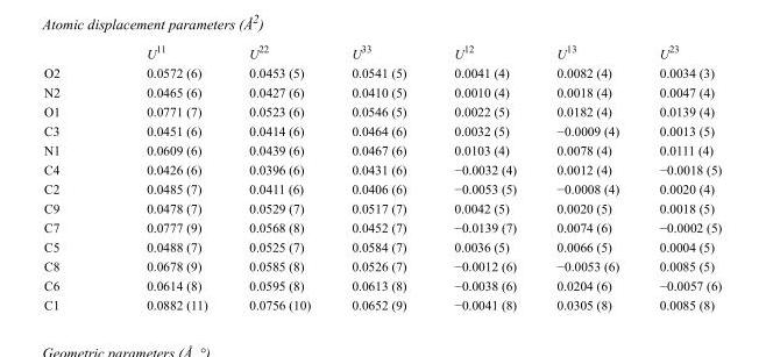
<table><thead><tr><td></td><td>U<sup>11</sup></td><td>U<sup>22</sup></td><td>U<sup>33</sup></td><td>U<sup>12</sup></td><td>U<sup>13</sup></td><td>U<sup>23</sup></td></tr></thead><tbody><tr><td>O2</td><td>0.0572 (6)</td><td>0.0453 (5)</td><td>0.0541 (5)</td><td>0.0041 (4)</td><td>0.0082 (4)</td><td>0.0034 (3)</td></tr><tr><td>N2</td><td>0.0465 (6)</td><td>0.0427 (6)</td><td>0.0410 (5)</td><td>0.0010 (4)</td><td>0.0018 (4)</td><td>0.0047 (4)</td></tr><tr><td>O1</td><td>0.0771 (7)</td><td>0.0523 (6)</td><td>0.0546 (5)</td><td>0.0022 (5)</td><td>0.0182 (4)</td><td>0.0139 (4)</td></tr><tr><td>C3</td><td>0.0451 (6)</td><td>0.0414 (6)</td><td>0.0464 (6)</td><td>0.0032 (5)</td><td>−0.0009 (4)</td><td>0.0013 (5)</td></tr><tr><td>N1</td><td>0.0609 (6)</td><td>0.0439 (6)</td><td>0.0467 (6)</td><td>0.0103 (4)</td><td>0.0078 (4)</td><td>0.0111 (4)</td></tr><tr><td>C4</td><td>0.0426 (6)</td><td>0.0396 (6)</td><td>0.0431 (6)</td><td>−0.0032 (4)</td><td>0.0012 (4)</td><td>−0.0018 (5)</td></tr><tr><td>C2</td><td>0.0485 (7)</td><td>0.0411 (6)</td><td>0.0406 (6)</td><td>−0.0053 (5)</td><td>−0.0008 (4)</td><td>0.0020 (4)</td></tr><tr><td>C9</td><td>0.0478 (7)</td><td>0.0529 (7)</td><td>0.0517 (7)</td><td>0.0042 (5)</td><td>0.0020 (5)</td><td>0.0018 (5)</td></tr><tr><td>C7</td><td>0.0777 (9)</td><td>0.0568 (8)</td><td>0.0452 (7)</td><td>−0.0139 (7)</td><td>0.0074 (6)</td><td>−0.0002 (5)</td></tr><tr><td>C5</td><td>0.0488 (7)</td><td>0.0525 (7)</td><td>0.0584 (7)</td><td>0.0036 (5)</td><td>0.0066 (5)</td><td>0.0004 (5)</td></tr><tr><td>C8</td><td>0.0678 (9)</td><td>0.0585 (8)</td><td>0.0526 (7)</td><td>−0.0012 (6)</td><td>−0.0053 (6)</td><td>0.0085 (5)</td></tr><tr><td>C6</td><td>0.0614 (8)</td><td>0.0595 (8)</td><td>0.0613 (8)</td><td>−0.0038 (6)</td><td>0.0204 (6)</td><td>−0.0057 (6)</td></tr><tr><td>C1</td><td>0.0882 (11)</td><td>0.0756 (10)</td><td>0.0652 (9)</td><td>−0.0041 (8)</td><td>0.0305 (8)</td><td>0.0085 (8)</td></tr></tbody></table>